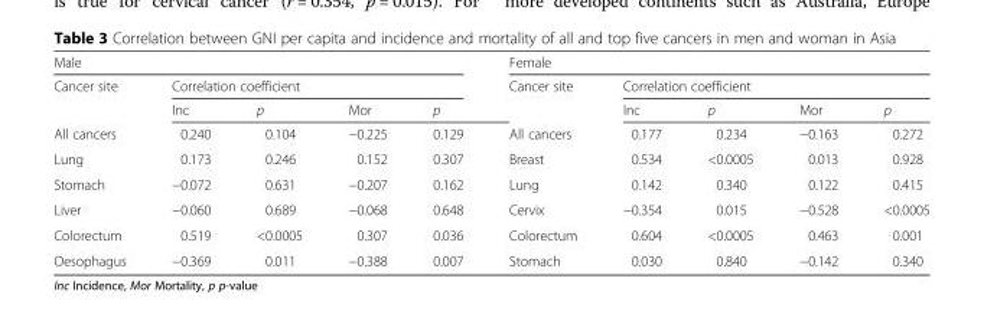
<table><thead><tr><td colspan="5">Male</td><td colspan="5">Female</td></tr><tr><td rowspan="2">Cancer site</td><td colspan="4">Correlation coefficient</td><td rowspan="2">Cancer site</td><td colspan="4">Correlation coefficient</td></tr><tr><td>Inc</td><td>p</td><td>Mor</td><td>p</td><td>Inc</td><td>p</td><td>Mor</td><td>p</td></tr></thead><tbody><tr><td>All cancers</td><td>0.240</td><td>0.104</td><td>−0.225</td><td>0.129</td><td>All cancers</td><td>0.177</td><td>0.234</td><td>−0.163</td><td>0.272</td></tr><tr><td>Lung</td><td>0.173</td><td>0.246</td><td>0.152</td><td>0.307</td><td>Breast</td><td>0.534</td><td>&lt;0.0005</td><td>0.013</td><td>0.928</td></tr><tr><td>Stomach</td><td>−0.072</td><td>0.631</td><td>−0.207</td><td>0.162</td><td>Lung</td><td>0.142</td><td>0.340</td><td>0.122</td><td>0.415</td></tr><tr><td>Liver</td><td>−0.060</td><td>0.689</td><td>−0.068</td><td>0.648</td><td>Cervix</td><td>−0.354</td><td>0.015</td><td>−0.528</td><td>&lt;0.0005</td></tr><tr><td>Colorectum</td><td>0.519</td><td>&lt;0.0005</td><td>0.307</td><td>0.036</td><td>Colorectum</td><td>0.604</td><td>&lt;0.0005</td><td>0.463</td><td>0.001</td></tr><tr><td>Oesophagus</td><td>−0.369</td><td>0.011</td><td>−0.388</td><td>0.007</td><td>Stomach</td><td>0.030</td><td>0.840</td><td>−0.142</td><td>0.340</td></tr></tbody></table>